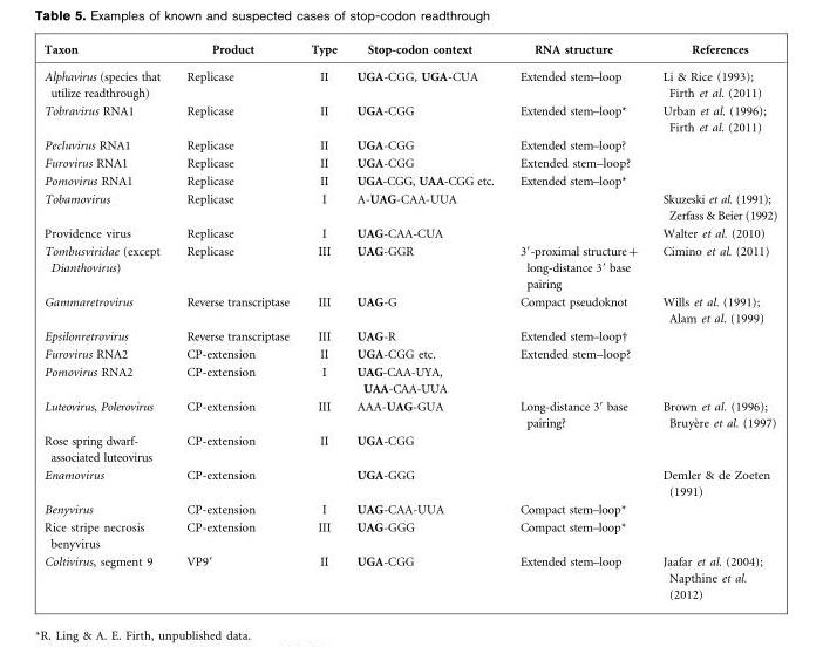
<table><thead><tr><td>Taxon</td><td>Product</td><td>Type</td><td>Stop-codon context</td><td>RNA structure</td><td>References</td></tr></thead><tbody><tr><td>Alphavirus (species that utilize readthrough)</td><td>Replicase</td><td>II</td><td>UGA-CGG, UGA-CUA</td><td>Extended stem–loop</td><td>Li &amp; Rice (1993); Firth et al. (2011)</td></tr><tr><td>Tobravirus RNA1</td><td>Replicase</td><td>II</td><td>UGA-CGG</td><td>Extended stem–loop*</td><td>Urban et al. (1996); Firth et al. (2011)</td></tr><tr><td>Pecluvirus RNA1</td><td>Replicase</td><td>II</td><td>UGA-CGG</td><td>Extended stem–loop?</td><td></td></tr><tr><td>Furovirus RNA1</td><td>Replicase</td><td>II</td><td>UGA-CGG</td><td>Extended stem–loop?</td><td></td></tr><tr><td>Pomovirus RNA1</td><td>Replicase</td><td>II</td><td>UGA-CGG, UAA-CGG etc.</td><td>Extended stem–loop*</td><td></td></tr><tr><td>Tobamovirus</td><td>Replicase</td><td>I</td><td>A-UAG-CAA-UUA</td><td></td><td>Skuzeski et al. (1991); Zerfass &amp; Beier (1992)</td></tr><tr><td>Providence virus</td><td>Replicase</td><td>I</td><td>UAG-CAA-CUA</td><td></td><td>Walter et al. (2010)</td></tr><tr><td>Tombusviridae (except Dianthovirus)</td><td>Replicase</td><td>III</td><td>UAG-GGR</td><td>3′-proximal structure+ long-distance 3′ base pairing</td><td>Cimino et al. (2011)</td></tr><tr><td>Gammaretrovirus</td><td>Reverse transcriptase</td><td>III</td><td>UAG-G</td><td>Compact pseudoknot</td><td>Wills et al. (1991); Alam et al. (1999)</td></tr><tr><td>Epsilonretrovirus</td><td>Reverse transcriptase</td><td>III</td><td>UAG-R</td><td>Extended stem–loop†</td><td></td></tr><tr><td>Furovirus RNA2</td><td>CP-extension</td><td>II</td><td>UGA-CGG etc.</td><td>Extended stem–loop?</td><td></td></tr><tr><td>Pomovirus RNA2</td><td>CP-extension</td><td>I</td><td>UAG-CAA-UYA, UAA-CAA-UUA</td><td></td><td></td></tr><tr><td>Luteovirus, Polerovirus</td><td>CP-extension</td><td>III</td><td>AAA-UAG-GUA</td><td>Long-distance 3′ base pairing?</td><td>Brown et al. (1996); Bruye`re et al. (1997)</td></tr><tr><td>Rose spring dwarf- associated luteovirus</td><td>CP-extension</td><td>II</td><td>UGA-CGG</td><td></td><td></td></tr><tr><td>Enamovirus</td><td>CP-extension</td><td></td><td>UGA-GGG</td><td></td><td>Demler &amp; de Zoeten (1991)</td></tr><tr><td>Benyvirus</td><td>CP-extension</td><td>I</td><td>UAG-CAA-UUA</td><td>Compact stem–loop*</td><td></td></tr><tr><td>Rice stripe necrosis benyvirus</td><td>CP-extension</td><td>III</td><td>UAG-GGG</td><td>Compact stem–loop*</td><td></td></tr><tr><td>Coltivirus, segment 9</td><td>VP9′</td><td>II</td><td>UGA-CGG</td><td>Extended stem–loop</td><td>Jaafar et al. (2004); Napthine et al. (2012)</td></tr></tbody></table>